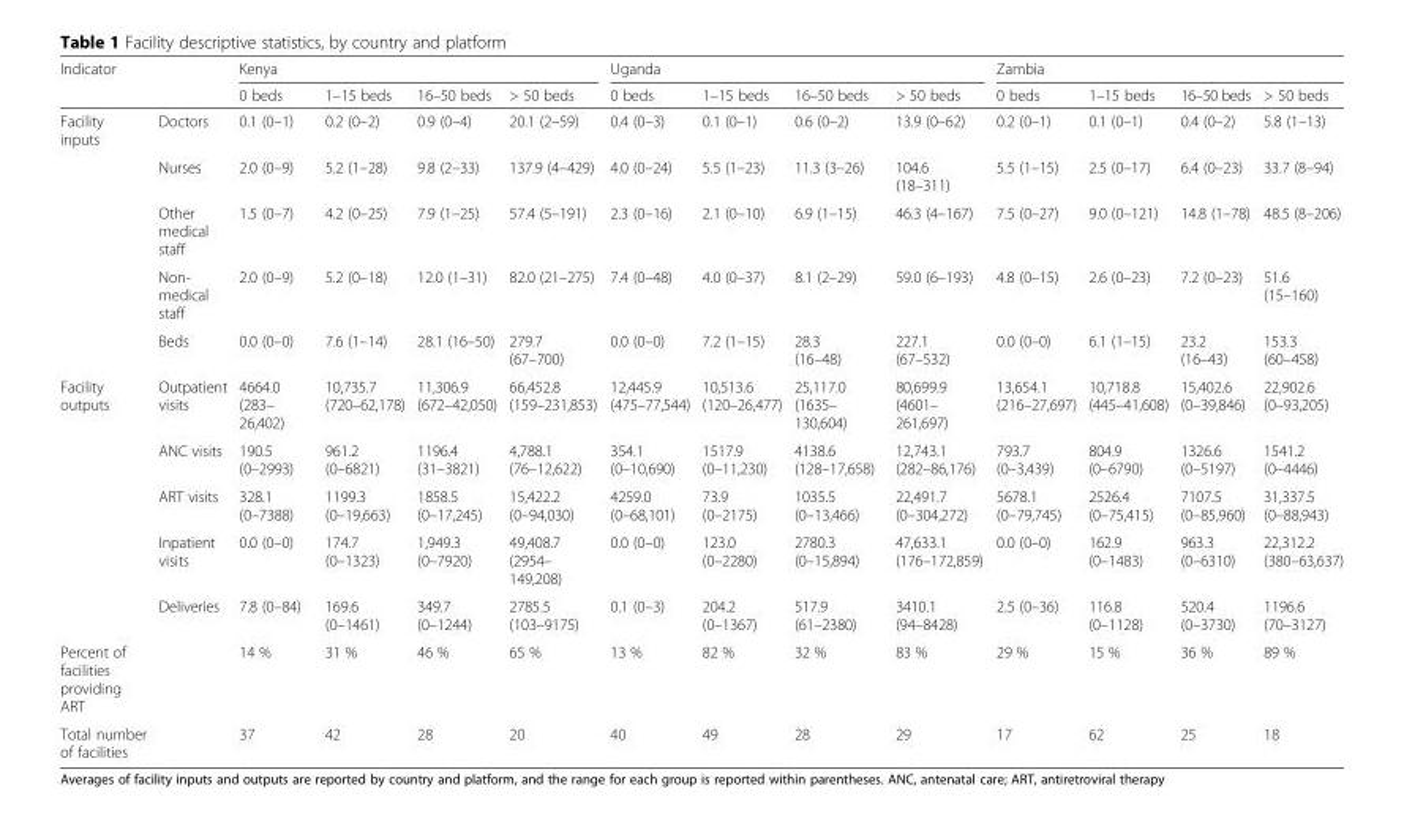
<table><thead><tr><td rowspan="2" colspan="2">Indicator</td><td colspan="4">Kenya</td><td colspan="4">Uganda</td><td colspan="4">Zambia</td></tr><tr><td rowspan="2">0 beds 0.1 (0–1)</td><td rowspan="2">1–15 beds 0.2 (0–2)</td><td rowspan="2">16–50 beds 0.9 (0–4)</td><td rowspan="2">&gt; 50 beds 20.1 (2–59)</td><td rowspan="2">0 beds 0.4 (0–3)</td><td rowspan="2">1–15 beds 0.1 (0–1)</td><td rowspan="2">16–50 beds 0.6 (0–2)</td><td rowspan="2">&gt; 50 beds 13.9 (0–62)</td><td rowspan="2">0 beds 0.2 (0–1)</td><td rowspan="2">1–15 beds 0.1 (0–1)</td><td rowspan="2">16–50 beds 0.4 (0–2)</td><td rowspan="2">&gt; 50 beds 5.8 (1–13)</td></tr><tr><td>Facility inputs</td><td>Doctors</td></tr></thead><tbody><tr><td></td><td>Nurses</td><td>2.0 (0–9)</td><td>5.2 (1–28)</td><td>9.8 (2–33)</td><td>137.9 (4–429)</td><td>4.0 (0–24)</td><td>5.5 (1–23)</td><td>11.3 (3–26)</td><td>104.6 (18–311)</td><td>5.5 (1–15)</td><td>2.5 (0–17)</td><td>6.4 (0–23)</td><td>33.7 (8–94)</td></tr><tr><td></td><td>Other medical staff</td><td>1.5 (0–7)</td><td>4.2 (0–25)</td><td>7.9 (1–25)</td><td>57.4 (5–191)</td><td>2.3 (0–16)</td><td>2.1 (0–10)</td><td>6.9 (1–15)</td><td>46.3 (4–167)</td><td>7.5 (0–27)</td><td>9.0 (0–121)</td><td>14.8 (1–78)</td><td>48.5 (8–206)</td></tr><tr><td></td><td>Non- medical staff</td><td>2.0 (0–9)</td><td>5.2 (0–18)</td><td>12.0 (1–31)</td><td>82.0 (21–275)</td><td>7.4 (0–48)</td><td>4.0 (0–37)</td><td>8.1 (2–29)</td><td>59.0 (6–193)</td><td>4.8 (0–15)</td><td>2.6 (0–23)</td><td>7.2 (0–23)</td><td>51.6 (15–160)</td></tr><tr><td></td><td>Beds</td><td>0.0 (0–0)</td><td>7.6 (1–14)</td><td>28.1 (16–50)</td><td>279.7 (67–700)</td><td>0.0 (0–0)</td><td>7.2 (1–15)</td><td>28.3 (16–48)</td><td>227.1 (67–532)</td><td>0.0 (0–0)</td><td>6.1 (1–15)</td><td>23.2 (16–43)</td><td>153.3 (60–458)</td></tr><tr><td rowspan="5">Facility outputs</td><td>Outpatient visits</td><td>4664.0 (283– 26,402)</td><td>10,735.7 (720–62,178)</td><td>11,306.9 (672–42,050)</td><td>66,452.8 (159–231,853)</td><td>12,445.9 (475–77,544)</td><td>10,513.6 (120–26,477)</td><td>25,117.0 (1635– 130,604)</td><td>80,699.9 (4601– 261,697)</td><td>13,654.1 (216–27,697)</td><td>10,718.8 (445–41,608)</td><td>15,402.6 (0–39,846)</td><td>22,902.6 (0–93,205)</td></tr><tr><td>ANC visits</td><td>190.5 (0–2993)</td><td>961.2 (0–6821)</td><td>1196.4 (31–3821)</td><td>4,788.1 (76–12,622)</td><td>354.1 (0–10,690)</td><td>1517.9 (0–11,230)</td><td>4138.6 (128–17,658)</td><td>12,743.1 (282–86,176)</td><td>793.7 (0–3,439)</td><td>804.9 (0–6790)</td><td>1326.6 (0–5197)</td><td>1541.2 (0–4446)</td></tr><tr><td>ART visits</td><td>328.1 (0–7388)</td><td>1199.3 (0–19,663)</td><td>1858.5 (0–17,245)</td><td>15,422.2 (0–94,030)</td><td>4259.0 (0–68,101)</td><td>73.9 (0–2175)</td><td>1035.5 (0–13,466)</td><td>22,491.7 (0–304,272)</td><td>5678.1 (0–79,745)</td><td>2526.4 (0–75,415)</td><td>7107.5 (0–85,960)</td><td>31,337.5 (0–88,943)</td></tr><tr><td>Inpatient visits</td><td>0.0 (0–0)</td><td>174.7 (0–1323)</td><td>1,949.3 (0–7920)</td><td>49,408.7 (2954– 149,208)</td><td>0.0 (0–0)</td><td>123.0 (0–2280)</td><td>2780.3 (0–15,894)</td><td>47,633.1 (176–172,859)</td><td>0.0 (0–0)</td><td>162.9 (0–1483)</td><td>963.3 (0–6310)</td><td>22,312.2 (380–63,637)</td></tr><tr><td>Deliveries</td><td>7.8 (0–84)</td><td>169.6 (0–1461)</td><td>349.7 (0–1244)</td><td>2785.5 (103–9175)</td><td>0.1 (0–3)</td><td>204.2 (0–1367)</td><td>517.9 (61–2380)</td><td>3410.1 (94–8428)</td><td>2.5 (0–36)</td><td>116.8 (0–1128)</td><td>520.4 (0–3730)</td><td>1196.6 (70–3127)</td></tr><tr><td>Percent of facilities providing ART</td><td></td><td>14 %</td><td>31 %</td><td>46 %</td><td>65 %</td><td>13 %</td><td>82 %</td><td>32 %</td><td>83 %</td><td>29 %</td><td>15 %</td><td>36 %</td><td>89 %</td></tr><tr><td>Total number of facilities</td><td></td><td>37</td><td>42</td><td>28</td><td>20</td><td>40</td><td>49</td><td>28</td><td>29</td><td>17</td><td>62</td><td>25</td><td>18</td></tr></tbody></table>